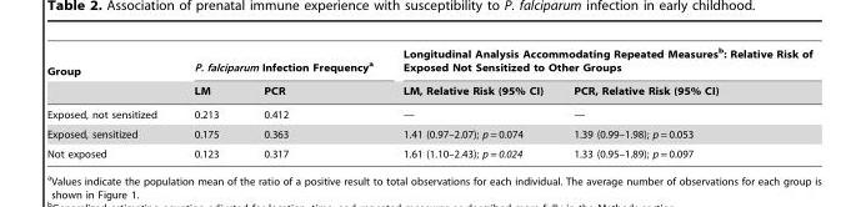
<table><thead><tr><td rowspan="2">Group</td><td colspan="2">P. falciparum Infection Frequency<sup>a</sup></td><td colspan="2">Longitudinal Analysis Accommodating Repeated Measures<sup>b</sup>: Relative Risk of Exposed Not Sensitized to Other Groups</td></tr><tr><td>LM</td><td>PCR</td><td>LM, Relative Risk (95% CI)</td><td>PCR, Relative Risk (95% CI)</td></tr></thead><tbody><tr><td>Exposed, not sensitized</td><td>0.213</td><td>0.412</td><td>—</td><td>—</td></tr><tr><td>Exposed, sensitized</td><td>0.175</td><td>0.363</td><td>1.41 (0.97–2.07); p = 0.074</td><td>1.39 (0.99–1.98); p = 0.053</td></tr><tr><td>Not exposed</td><td>0.123</td><td>0.317</td><td>1.61 (1.10–2.43); p = 0.024</td><td>1.33 (0.95–1.89); p = 0.097</td></tr></tbody></table>